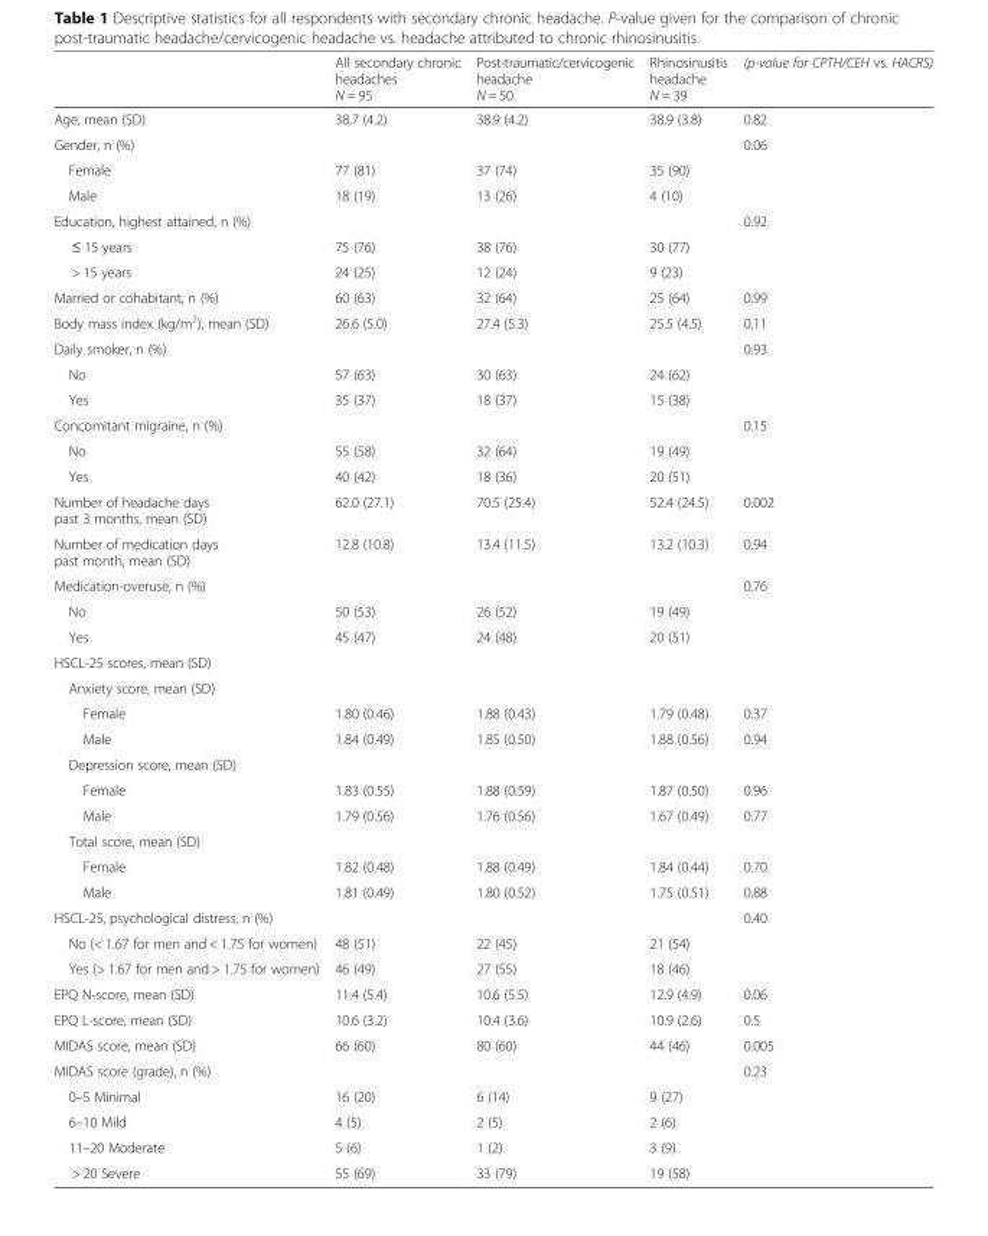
<table><thead><tr><td></td><td>All secondary chronic headaches N = 95</td><td>Post-traumatic/cervicogenic headache N = 50</td><td>Rhinosinusitis headache N = 39</td><td>(p-value for CPTH/CEH vs. HACRS)</td></tr></thead><tbody><tr><td>Age, mean (SD)</td><td>38.7 (4.2)</td><td>38.9 (4.2)</td><td>38.9 (3.8)</td><td>0.82</td></tr><tr><td colspan="4">Gender, n (%)</td><td>0.06</td></tr><tr><td>Female</td><td>77 (81)</td><td>37 (74)</td><td>35 (90)</td><td></td></tr><tr><td>Male</td><td>18 (19)</td><td>13 (26)</td><td>4 (10)</td><td></td></tr><tr><td colspan="4">Education, highest attained, n (%)</td><td>0.92</td></tr><tr><td>≤ 15 years</td><td>75 (76)</td><td>38 (76)</td><td>30 (77)</td><td></td></tr><tr><td>&gt; 15 years</td><td>24 (25)</td><td>12 (24)</td><td>9 (23)</td><td></td></tr><tr><td>Married or cohabitant, n (%)</td><td>60 (63)</td><td>32 (64)</td><td>25 (64)</td><td>0.99</td></tr><tr><td>Body mass index (kg/m<sup>2</sup>), mean (SD)</td><td>26.6 (5.0)</td><td>27.4 (5.3)</td><td>25.5 (4.5)</td><td>0.11</td></tr><tr><td colspan="4">Daily smoker, n (%)</td><td>0.93</td></tr><tr><td>No</td><td>57 (63)</td><td>30 (63)</td><td>24 (62)</td><td></td></tr><tr><td>Yes</td><td>35 (37)</td><td>18 (37)</td><td>15 (38)</td><td></td></tr><tr><td colspan="4">Concomitant migraine, n (%)</td><td>0.15</td></tr><tr><td>No</td><td>55 (58)</td><td>32 (64)</td><td>19 (49)</td><td></td></tr><tr><td>Yes</td><td>40 (42)</td><td>18 (36)</td><td>20 (51)</td><td></td></tr><tr><td>Number of headache days past 3 months, mean (SD)</td><td>62.0 (27.1)</td><td>70.5 (25.4)</td><td>52.4 (24.5)</td><td>0.002</td></tr><tr><td>Number of medication days past month, mean (SD)</td><td>12.8 (10.8)</td><td>13.4 (11.5)</td><td>13.2 (10.3)</td><td>0.94</td></tr><tr><td colspan="4">Medication-overuse, n (%)</td><td>0.76</td></tr><tr><td>No</td><td>50 (53)</td><td>26 (52)</td><td>19 (49)</td><td></td></tr><tr><td>Yes</td><td>45 (47)</td><td>24 (48)</td><td>20 (51)</td><td></td></tr><tr><td colspan="5">HSCL-25 scores, mean (SD)</td></tr><tr><td colspan="5">Anxiety score, mean (SD)</td></tr><tr><td>Female</td><td>1.80 (0.46)</td><td>1.88 (0.43)</td><td>1.79 (0.48)</td><td>0.37</td></tr><tr><td>Male</td><td>1.84 (0.49)</td><td>1.85 (0.50)</td><td>1.88 (0.56)</td><td>0.94</td></tr><tr><td colspan="5">Depression score, mean (SD)</td></tr><tr><td>Female</td><td>1.83 (0.55)</td><td>1.88 (0.59)</td><td>1.87 (0.50)</td><td>0.96</td></tr><tr><td>Male</td><td>1.79 (0.56)</td><td>1.76 (0.56)</td><td>1.67 (0.49)</td><td>0.77</td></tr><tr><td colspan="5">Total score, mean (SD)</td></tr><tr><td>Female</td><td>1.82 (0.48)</td><td>1.88 (0.49)</td><td>1.84 (0.44)</td><td>0.70</td></tr><tr><td>Male</td><td>1.81 (0.49)</td><td>1.80 (0.52)</td><td>1.75 (0.51)</td><td>0.88</td></tr><tr><td colspan="4">HSCL-25, psychological distress, n (%)</td><td>0.40</td></tr><tr><td>No (&lt; 1.67 for men and &lt; 1.75 for women)</td><td>48 (51)</td><td>22 (45)</td><td>21 (54)</td><td></td></tr><tr><td>Yes (&gt; 1.67 for men and &gt; 1.75 for women)</td><td>46 (49)</td><td>27 (55)</td><td>18 (46)</td><td></td></tr><tr><td>EPQ N-score, mean (SD)</td><td>11.4 (5.4)</td><td>10.6 (5.5)</td><td>12.9 (4.9)</td><td>0.06</td></tr><tr><td>EPQ L-score, mean (SD)</td><td>10.6 (3.2)</td><td>10.4 (3.6)</td><td>10.9 (2.6)</td><td>0.5</td></tr><tr><td>MIDAS score, mean (SD)</td><td>66 (60)</td><td>80 (60)</td><td>44 (46)</td><td>0.005</td></tr><tr><td colspan="4">MIDAS score (grade), n (%)</td><td>0.23</td></tr><tr><td>0–5 Minimal</td><td>16 (20)</td><td>6 (14)</td><td>9 (27)</td><td></td></tr><tr><td>6–10 Mild</td><td>4 (5)</td><td>2 (5)</td><td>2 (6)</td><td></td></tr><tr><td>11–20 Moderate</td><td>5 (6)</td><td>1 (2)</td><td>3 (9)</td><td></td></tr><tr><td>&gt; 20 Severe</td><td>55 (69)</td><td>33 (79)</td><td>19 (58)</td><td></td></tr></tbody></table>